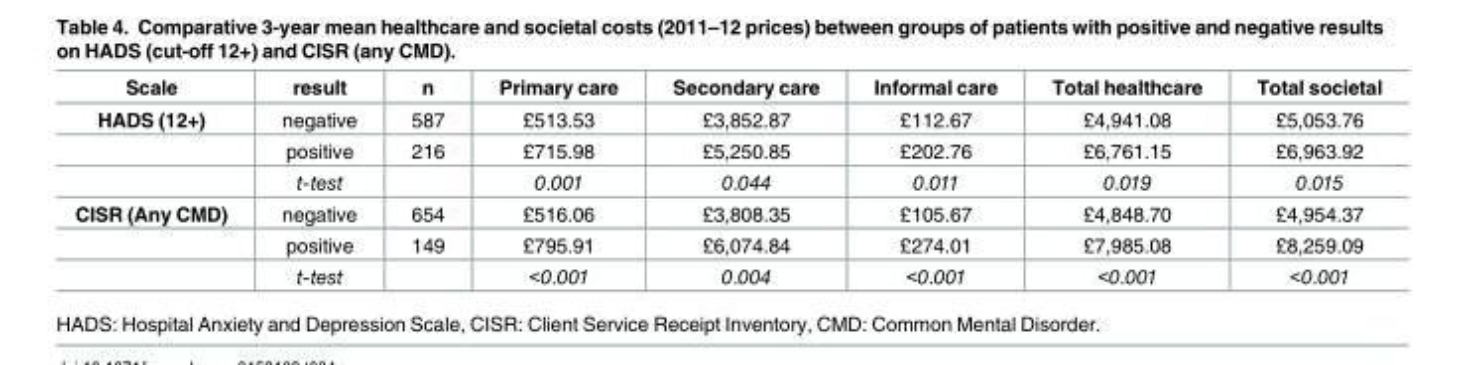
<table><thead><tr><td>Scale</td><td>result</td><td>n</td><td>Primary care</td><td>Secondary care</td><td>Informal care</td><td>Total healthcare</td><td>Total societal</td></tr></thead><tbody><tr><td rowspan="3">HADS (12+)</td><td>negative</td><td>587</td><td>£513.53</td><td>£3,852.87</td><td>£112.67</td><td>£4,941.08</td><td>£5,053.76</td></tr><tr><td>positive</td><td>216</td><td>£715.98</td><td>£5,250.85</td><td>£202.76</td><td>£6,761.15</td><td>£6,963.92</td></tr><tr><td>t-test</td><td></td><td>0.001</td><td>0.044</td><td>0.011</td><td>0.019</td><td>0.015</td></tr><tr><td rowspan="3">CISR (Any CMD)</td><td>negative</td><td>654</td><td>£516.06</td><td>£3,808.35</td><td>£105.67</td><td>£4,848.70</td><td>£4,954.37</td></tr><tr><td>positive</td><td>149</td><td>£795.91</td><td>£6,074.84</td><td>£274.01</td><td>£7,985.08</td><td>£8,259.09</td></tr><tr><td>t-test</td><td></td><td>&lt;0.001</td><td>0.004</td><td>&lt;0.001</td><td>&lt;0.001</td><td>&lt;0.001</td></tr></tbody></table>